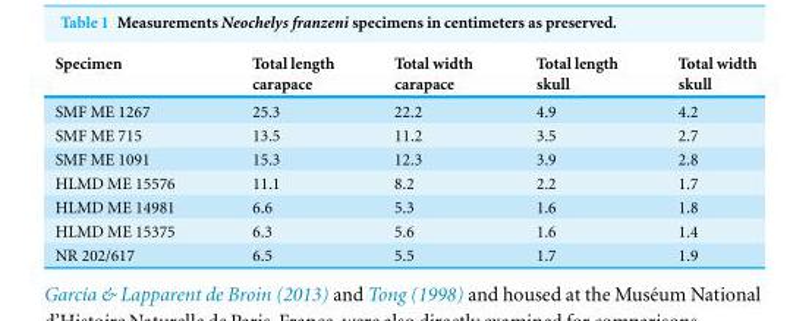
<table><thead><tr><td>Specimen</td><td>Total length carapace</td><td>Total width carapace</td><td>Total length skull</td><td>Total width skull</td></tr></thead><tbody><tr><td>SMF ME 1267</td><td>25.3</td><td>22.2</td><td>4.9</td><td>4.2</td></tr><tr><td>SMF ME 715</td><td>13.5</td><td>11.2</td><td>3.5</td><td>2.7</td></tr><tr><td>SMF ME 1091</td><td>15.3</td><td>12.3</td><td>3.9</td><td>2.8</td></tr><tr><td>HLMD ME 15576</td><td>11.1</td><td>8.2</td><td>2.2</td><td>1.7</td></tr><tr><td>HLMD ME 14981</td><td>6.6</td><td>5.3</td><td>1.6</td><td>1.8</td></tr><tr><td>HLMD ME 15375</td><td>6.3</td><td>5.6</td><td>1.6</td><td>1.4</td></tr><tr><td>NR 202/617</td><td>6.5</td><td>5.5</td><td>1.7</td><td>1.9</td></tr></tbody></table>